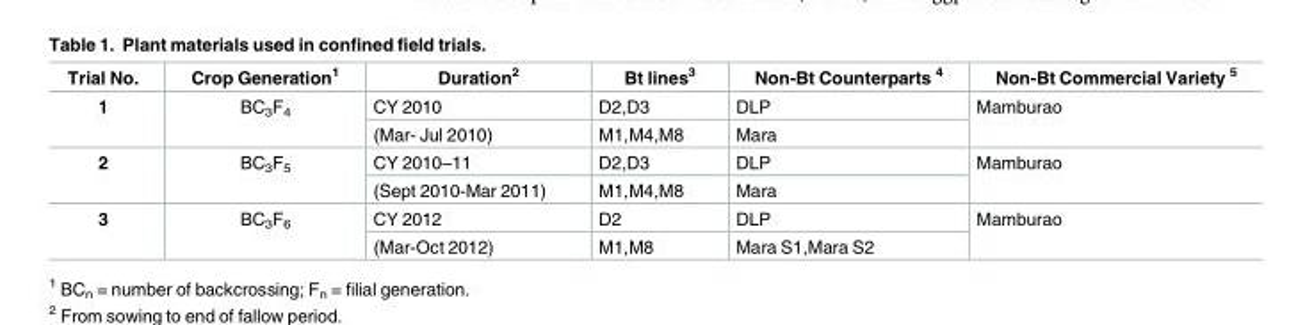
<table><thead><tr><td>Trial No.</td><td>Crop Generation<sup>1</sup></td><td>Duration<sup>2</sup></td><td>Bt lines<sup>3</sup></td><td>Non-Bt Counterparts <sup>4</sup></td><td>Non-Bt Commercial Variety <sup>5</sup></td></tr></thead><tbody><tr><td rowspan="2">1</td><td rowspan="2">BC<sub>3</sub>F<sub>4</sub></td><td>CY 2010</td><td>D2,D3</td><td>DLP</td><td rowspan="2">Mamburao</td></tr><tr><td>(Mar- Jul 2010)</td><td>M1,M4,M8</td><td>Mara</td></tr><tr><td rowspan="2">2</td><td rowspan="2">BC<sub>3</sub>F<sub>5</sub></td><td>CY 2010–11</td><td>D2,D3</td><td>DLP</td><td rowspan="2">Mamburao</td></tr><tr><td>(Sept 2010-Mar 2011)</td><td>M1,M4,M8</td><td>Mara</td></tr><tr><td rowspan="2">3</td><td rowspan="2">BC<sub>3</sub>F<sub>6</sub></td><td>CY 2012</td><td>D2</td><td>DLP</td><td rowspan="2">Mamburao</td></tr><tr><td>(Mar-Oct 2012)</td><td>M1,M8</td><td>Mara S1,Mara S2</td></tr></tbody></table>